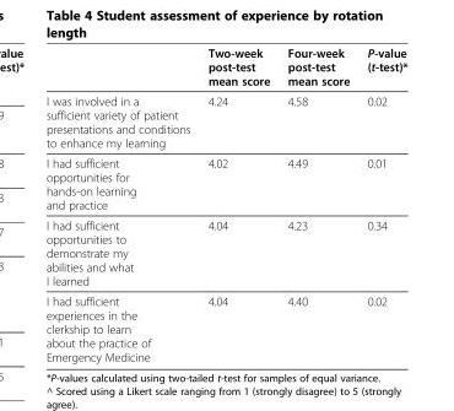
<table><thead><tr><td></td><td>Two-week post-test mean score</td><td>Four-week post-test mean score</td><td>P-value (t-test)*</td></tr></thead><tbody><tr><td>I was involved in a sufficient variety of patient presentations and conditions to enhance my learning</td><td>4.24</td><td>4.58</td><td>0.02</td></tr><tr><td>I had sufficient opportunities for hands-on learning and practice</td><td>4.02</td><td>4.49</td><td>0.01</td></tr><tr><td>I had sufficient opportunities to demonstrate my abilities and what I learned</td><td>4.04</td><td>4.23</td><td>0.34</td></tr><tr><td>I had sufficient experiences in the clerkship to learn about the practice of Emergency Medicine</td><td>4.04</td><td>4.40</td><td>0.02</td></tr></tbody></table>